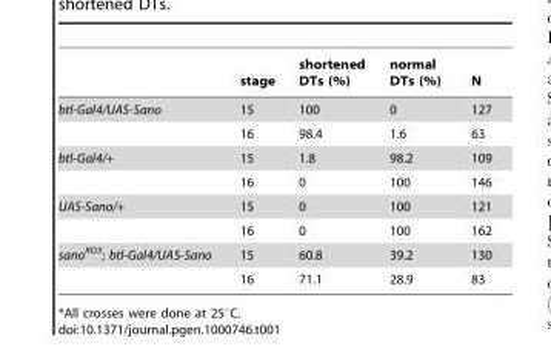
<table><thead><tr><td></td><td>stage</td><td>shortened DTs (%)</td><td>normal DTs (%)</td><td>N</td></tr></thead><tbody><tr><td rowspan="2">btl-Gal4/UAS-Sano</td><td>15</td><td>100</td><td>0</td><td>127</td></tr><tr><td>16</td><td>98.4</td><td>1.6</td><td>63</td></tr><tr><td rowspan="2">btl-Gal4/+</td><td>15</td><td>1.8</td><td>98.2</td><td>109</td></tr><tr><td>16</td><td>0</td><td>100</td><td>146</td></tr><tr><td rowspan="2">UAS-Sano/+</td><td>15</td><td>0</td><td>100</td><td>121</td></tr><tr><td>16</td><td>0</td><td>100</td><td>162</td></tr><tr><td rowspan="2">sano<sup>KO3</sup>; btl-Gal4/UAS-Sano</td><td>15</td><td>60.8</td><td>39.2</td><td>130</td></tr><tr><td>16</td><td>71.1</td><td>28.9</td><td>83</td></tr></tbody></table>